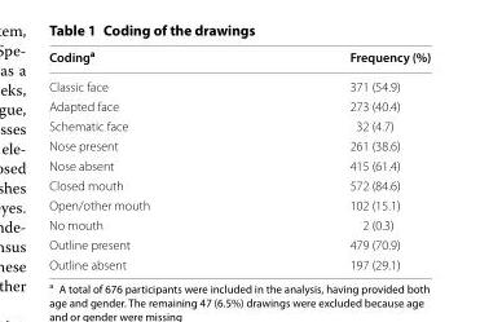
<table><thead><tr><td>Coding<sup>a</sup></td><td>Frequency (%)</td></tr></thead><tbody><tr><td>Classic face</td><td>371 (54.9)</td></tr><tr><td>Adapted face</td><td>273 (40.4)</td></tr><tr><td>Schematic face</td><td>32 (4.7)</td></tr><tr><td>Nose present</td><td>261 (38.6)</td></tr><tr><td>Nose absent</td><td>415 (61.4)</td></tr><tr><td>Closed mouth</td><td>572 (84.6)</td></tr><tr><td>Open/other mouth</td><td>102 (15.1)</td></tr><tr><td>No mouth</td><td>2 (0.3)</td></tr><tr><td>Outline present</td><td>479 (70.9)</td></tr><tr><td>Outline absent</td><td>197 (29.1)</td></tr></tbody></table>